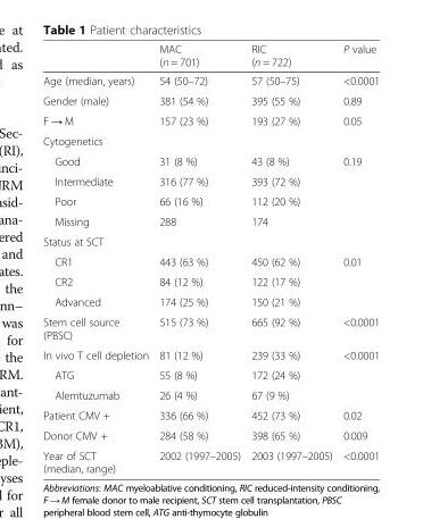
<table><thead><tr><td></td><td>MAC (n = 701)</td><td>RIC (n = 722)</td><td>P value</td></tr></thead><tbody><tr><td>Age (median, years)</td><td>54 (50–72)</td><td>57 (50–75)</td><td>&lt;0.0001</td></tr><tr><td>Gender (male)</td><td>381 (54 %)</td><td>395 (55 %)</td><td>0.89</td></tr><tr><td>F → M</td><td>157 (23 %)</td><td>193 (27 %)</td><td>0.05</td></tr><tr><td colspan="4">Cytogenetics</td></tr><tr><td>Good</td><td>31 (8 %)</td><td>43 (8 %)</td><td rowspan="4">0.19</td></tr><tr><td>Intermediate</td><td>316 (77 %)</td><td>393 (72 %)</td></tr><tr><td>Poor</td><td>66 (16 %)</td><td>112 (20 %)</td></tr><tr><td>Missing</td><td>288</td><td>174</td></tr><tr><td colspan="4">Status at SCT</td></tr><tr><td>CR1</td><td>443 (63 %)</td><td>450 (62 %)</td><td rowspan="3">0.01</td></tr><tr><td>CR2</td><td>84 (12 %)</td><td>122 (17 %)</td></tr><tr><td>Advanced</td><td>174 (25 %)</td><td>150 (21 %)</td></tr><tr><td>Stem cell source (PBSC)</td><td>515 (73 %)</td><td>665 (92 %)</td><td>&lt;0.0001</td></tr><tr><td>In vivo T cell depletion</td><td>81 (12 %)</td><td>239 (33 %)</td><td rowspan="3">&lt;0.0001</td></tr><tr><td>ATG</td><td>55 (8 %)</td><td>172 (24 %)</td></tr><tr><td>Alemtuzumab</td><td>26 (4 %)</td><td>67 (9 %)</td></tr><tr><td>Patient CMV +</td><td>336 (66 %)</td><td>452 (73 %)</td><td>0.02</td></tr><tr><td>Donor CMV +</td><td>284 (58 %)</td><td>398 (65 %)</td><td>0.009</td></tr><tr><td>Year of SCT (median, range)</td><td>2002 (1997–2005)</td><td>2003 (1997–2005)</td><td>&lt;0.0001</td></tr></tbody></table>